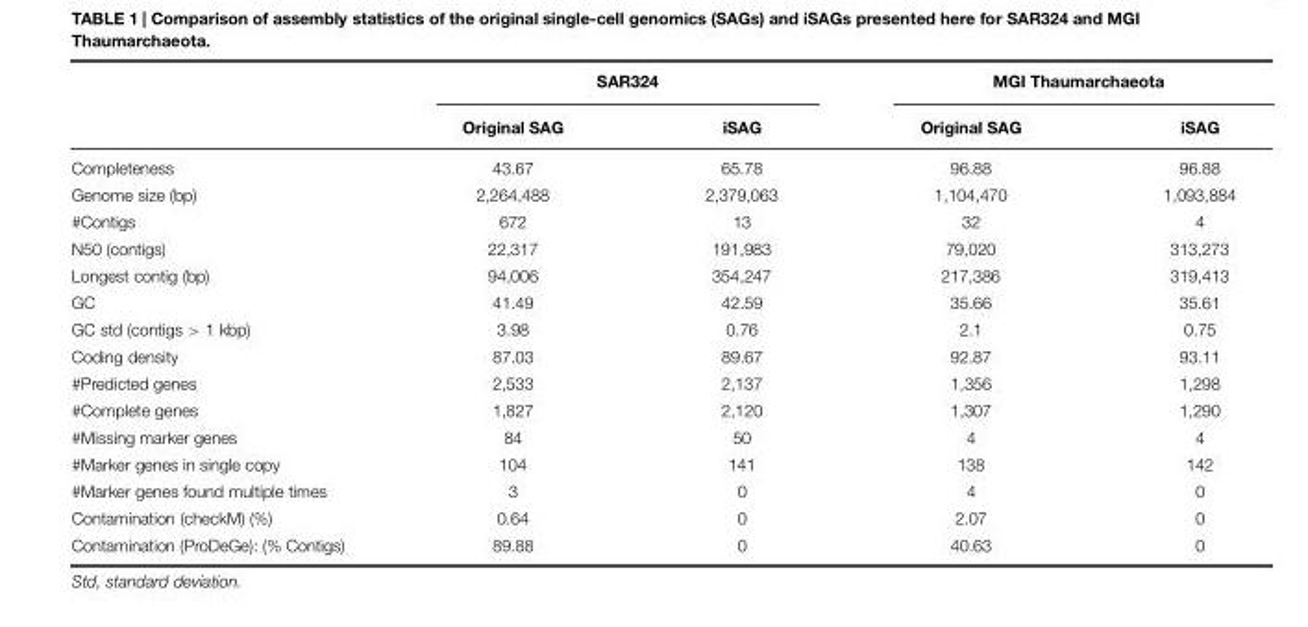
<table><thead><tr><td rowspan="2"></td><td colspan="2">SAR324</td><td colspan="2">MGI Thaumarchaeota</td></tr><tr><td>Original SAG</td><td>iSAG</td><td>Original SAG</td><td>iSAG</td></tr></thead><tbody><tr><td>Completeness</td><td>43.67</td><td>65.78</td><td>96.88</td><td>96.88</td></tr><tr><td>Genome size (bp)</td><td>2,264,488</td><td>2,379,063</td><td>1,104,470</td><td>1,093,884</td></tr><tr><td>#Contigs</td><td>672</td><td>13</td><td>32</td><td>4</td></tr><tr><td>N50 (contigs)</td><td>22,317</td><td>191,983</td><td>79,020</td><td>313,273</td></tr><tr><td>Longest contig (bp)</td><td>94,006</td><td>354,247</td><td>217,386</td><td>319,413</td></tr><tr><td>GC</td><td>41.49</td><td>42.59</td><td>35.66</td><td>35.61</td></tr><tr><td>GC std (contigs &gt; 1 kbp)</td><td>3.98</td><td>0.76</td><td>2.1</td><td>0.75</td></tr><tr><td>Coding density</td><td>87.03</td><td>89.67</td><td>92.87</td><td>93.11</td></tr><tr><td>#Predicted genes</td><td>2,533</td><td>2,137</td><td>1,356</td><td>1,298</td></tr><tr><td>#Complete genes</td><td>1,827</td><td>2,120</td><td>1,307</td><td>1,290</td></tr><tr><td>#Missing marker genes</td><td>84</td><td>50</td><td>4</td><td>4</td></tr><tr><td>#Marker genes in single copy</td><td>104</td><td>141</td><td>138</td><td>142</td></tr><tr><td>#Marker genes found multiple times</td><td>3</td><td>0</td><td>4</td><td>0</td></tr><tr><td>Contamination (checkM) (%)</td><td>0.64</td><td>0</td><td>2.07</td><td>0</td></tr><tr><td>Contamination (ProDeGe): (% Contigs)</td><td>89.88</td><td>0</td><td>40.63</td><td>0</td></tr></tbody></table>